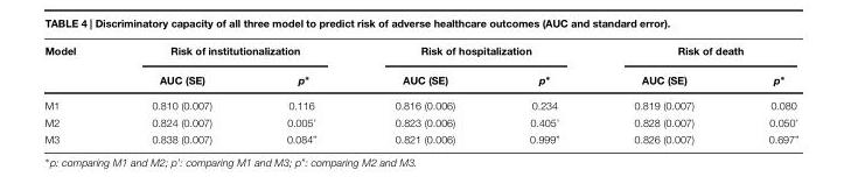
<table><thead><tr><td rowspan="2">Model</td><td colspan="2">Risk of institutionalization</td><td colspan="2">Risk of hospitalization</td><td colspan="2">Risk of death</td></tr><tr><td>AUC (SE)</td><td>p∗</td><td>AUC (SE)</td><td>p∗</td><td>AUC (SE)</td><td>p∗</td></tr></thead><tbody><tr><td>M1</td><td>0.810 (0.007)</td><td>0.116</td><td>0.816 (0.006)</td><td>0.234</td><td>0.819 (0.007)</td><td>0.080</td></tr><tr><td>M2</td><td>0.824 (0.007)</td><td>0.005’</td><td>0.823 (0.006)</td><td>0.405’</td><td>0.828 (0.007)</td><td>0.050’</td></tr><tr><td>M3</td><td>0.838 (0.007)</td><td>0.084”</td><td>0.821 (0.006)</td><td>0.999”</td><td>0.826 (0.007)</td><td>0.697”</td></tr></tbody></table>